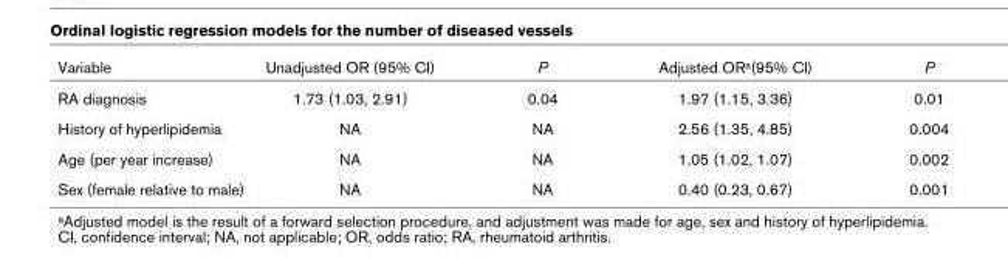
<table><thead><tr><td>Variable</td><td>Unadjusted OR (95% CI)</td><td>P</td><td>Adjusted ORa(95% CI)</td><td>P</td></tr></thead><tbody><tr><td>RA diagnosis</td><td>1.73 (1.03, 2.91)</td><td>0.04</td><td>1.97 (1.15, 3.36)</td><td>0.01</td></tr><tr><td>History of hyperlipidemia</td><td>NA</td><td>NA</td><td>2.56 (1.35, 4.85)</td><td>0.004</td></tr><tr><td>Age (per year increase)</td><td>NA</td><td>NA</td><td>1.05 (1.02, 1.07)</td><td>0.002</td></tr><tr><td>Sex (female relative to male)</td><td>NA</td><td>NA</td><td>0.40 (0.23, 0.67)</td><td>0.001</td></tr></tbody></table>